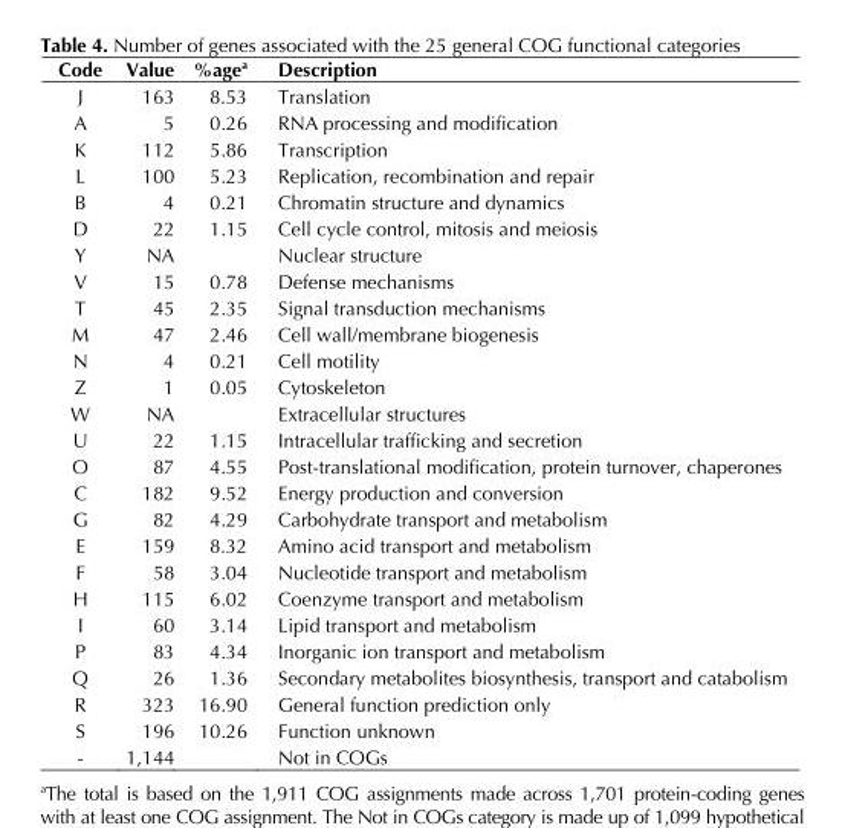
<table><thead><tr><td>Code</td><td>Value</td><td>%age<sup>a</sup></td><td>Description</td></tr></thead><tbody><tr><td>J</td><td>163</td><td>8.53</td><td>Translation</td></tr><tr><td>A</td><td>5</td><td>0.26</td><td>RNA processing and modification</td></tr><tr><td>K</td><td>112</td><td>5.86</td><td>Transcription</td></tr><tr><td>L</td><td>100</td><td>5.23</td><td>Replication, recombination and repair</td></tr><tr><td>B</td><td>4</td><td>0.21</td><td>Chromatin structure and dynamics</td></tr><tr><td>D</td><td>22</td><td>1.15</td><td>Cell cycle control, mitosis and meiosis</td></tr><tr><td>Y</td><td>NA</td><td></td><td>Nuclear structure</td></tr><tr><td>V</td><td>15</td><td>0.78</td><td>Defense mechanisms</td></tr><tr><td>T</td><td>45</td><td>2.35</td><td>Signal transduction mechanisms</td></tr><tr><td>M</td><td>47</td><td>2.46</td><td>Cell wall/membrane biogenesis</td></tr><tr><td>N</td><td>4</td><td>0.21</td><td>Cell motility</td></tr><tr><td>Z</td><td>1</td><td>0.05</td><td>Cytoskeleton</td></tr><tr><td>W</td><td>NA</td><td></td><td>Extracellular structures</td></tr><tr><td>U</td><td>22</td><td>1.15</td><td>Intracellular trafficking and secretion</td></tr><tr><td>O</td><td>87</td><td>4.55</td><td>Post-translational modification, protein turnover, chaperones</td></tr><tr><td>C</td><td>182</td><td>9.52</td><td>Energy production and conversion</td></tr><tr><td>G</td><td>82</td><td>4.29</td><td>Carbohydrate transport and metabolism</td></tr><tr><td>E</td><td>159</td><td>8.32</td><td>Amino acid transport and metabolism</td></tr><tr><td>F</td><td>58</td><td>3.04</td><td>Nucleotide transport and metabolism</td></tr><tr><td>H</td><td>115</td><td>6.02</td><td>Coenzyme transport and metabolism</td></tr><tr><td>I</td><td>60</td><td>3.14</td><td>Lipid transport and metabolism</td></tr><tr><td>P</td><td>83</td><td>4.34</td><td>Inorganic ion transport and metabolism</td></tr><tr><td>Q</td><td>26</td><td>1.36</td><td>Secondary metabolites biosynthesis, transport and catabolism</td></tr><tr><td>R</td><td>323</td><td>16.90</td><td>General function prediction only</td></tr><tr><td>S</td><td>196</td><td>10.26</td><td>Function unknown</td></tr><tr><td>-</td><td>1,144</td><td></td><td>Not in COGs</td></tr></tbody></table>